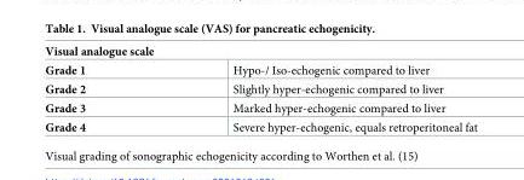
<table><thead><tr><td colspan="2">Visual analogue scale</td></tr><tr><td>Grade 1</td><td>Hypo-/ Iso-echogenic compared to liver</td></tr></thead><tbody><tr><td>Grade 2</td><td>Slightly hyper-echogenic compared to liver</td></tr><tr><td>Grade 3</td><td>Marked hyper-echogenic compared to liver</td></tr><tr><td>Grade 4</td><td>Severe hyper-echogenic, equals retroperitoneal fat</td></tr></tbody></table>